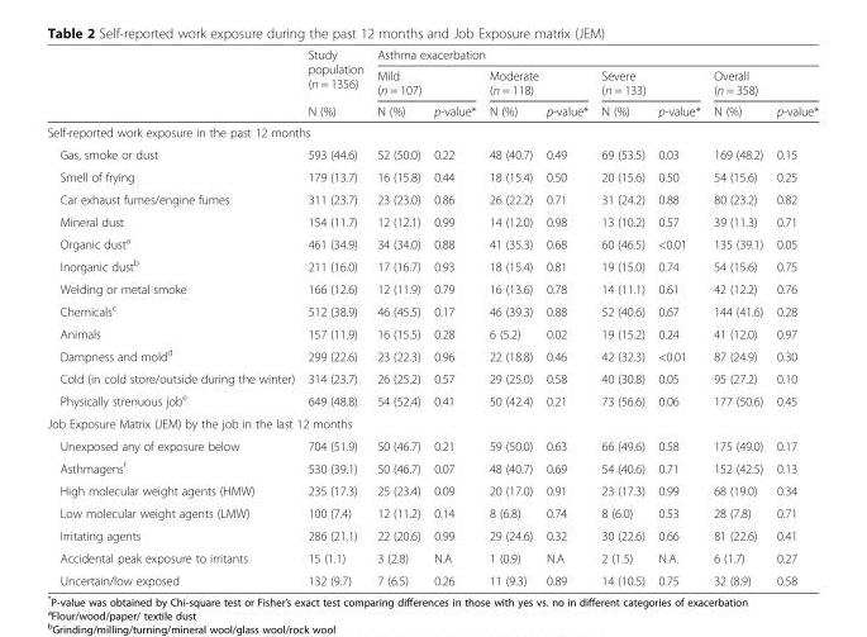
<table><thead><tr><td rowspan="3"></td><td rowspan="3">Study population (n = 1356) N (%)</td><td colspan="8">Asthma exacerbation</td></tr><tr><td colspan="2">Mild (n = 107)</td><td colspan="2">Moderate (n = 118)</td><td colspan="2">Severe (n = 133)</td><td colspan="2">Overall (n = 358)</td></tr><tr><td>N (%)</td><td>p-value*</td><td>N (%)</td><td>p-value*</td><td>N (%)</td><td>p-value*</td><td>N (%)</td><td>p-value*</td></tr></thead><tbody><tr><td colspan="10">Self-reported work exposure in the past 12 months</td></tr><tr><td>Gas, smoke or dust</td><td>593 (44.6)</td><td>52 (50.0)</td><td>0.22</td><td>48 (40.7)</td><td>0.49</td><td>69 (53.5)</td><td>0.03</td><td>169 (48.2)</td><td>0.15</td></tr><tr><td>Smell of frying</td><td>179 (13.7)</td><td>16 (15.8)</td><td>0.44</td><td>18 (15.4)</td><td>0.50</td><td>20 (15.6)</td><td>0.50</td><td>54 (15.6)</td><td>0.25</td></tr><tr><td>Car exhaust fumes/engine fumes</td><td>311 (23.7)</td><td>23 (23.0)</td><td>0.86</td><td>26 (22.2)</td><td>0.71</td><td>31 (24.2)</td><td>0.88</td><td>80 (23.2)</td><td>0.82</td></tr><tr><td>Mineral dust</td><td>154 (11.7)</td><td>12 (12.1)</td><td>0.99</td><td>14 (12.0)</td><td>0.98</td><td>13 (10.2)</td><td>0.57</td><td>39 (11.3)</td><td>0.71</td></tr><tr><td>Organic dust<sup>a</sup></td><td>461 (34.9)</td><td>34 (34.0)</td><td>0.88</td><td>41 (35.3)</td><td>0.68</td><td>60 (46.5)</td><td>&lt;0.01</td><td>135 (39.1)</td><td>0.05</td></tr><tr><td>Inorganic dust<sup>b</sup></td><td>211 (16.0)</td><td>17 (16.7)</td><td>0.93</td><td>18 (15.4)</td><td>0.81</td><td>19 (15.0)</td><td>0.74</td><td>54 (15.6)</td><td>0.75</td></tr><tr><td>Welding or metal smoke</td><td>166 (12.6)</td><td>12 (11.9)</td><td>0.79</td><td>16 (13.6)</td><td>0.78</td><td>14 (11.1)</td><td>0.61</td><td>42 (12.2)</td><td>0.76</td></tr><tr><td>Chemicals<sup>c</sup></td><td>512 (38.9)</td><td>46 (45.5)</td><td>0.17</td><td>46 (39.3)</td><td>0.88</td><td>52 (40.6)</td><td>0.67</td><td>144 (41.6)</td><td>0.28</td></tr><tr><td>Animals</td><td>157 (11.9)</td><td>16 (15.5)</td><td>0.28</td><td>6 (5.2)</td><td>0.02</td><td>19 (15.2)</td><td>0.24</td><td>41 (12.0)</td><td>0.97</td></tr><tr><td>Dampness and mold<sup>d</sup></td><td>299 (22.6)</td><td>23 (22.3)</td><td>0.96</td><td>22 (18.8)</td><td>0.46</td><td>42 (32.3)</td><td>&lt;0.01</td><td>87 (24.9)</td><td>0.30</td></tr><tr><td>Cold (in cold store/outside during the winter)</td><td>314 (23.7)</td><td>26 (25.2)</td><td>0.57</td><td>29 (25.0)</td><td>0.58</td><td>40 (30.8)</td><td>0.05</td><td>95 (27.2)</td><td>0.10</td></tr><tr><td>Physically strenuous job<sup>e</sup></td><td>649 (48.8)</td><td>54 (52.4)</td><td>0.41</td><td>50 (42.4)</td><td>0.21</td><td>73 (56.6)</td><td>0.06</td><td>177 (50.6)</td><td>0.45</td></tr><tr><td colspan="10">Job Exposure Matrix (JEM) by the job in the last 12 months</td></tr><tr><td>Unexposed any of exposure below</td><td>704 (51.9)</td><td>50 (46.7)</td><td>0.21</td><td>59 (50.0)</td><td>0.63</td><td>66 (49.6)</td><td>0.58</td><td>175 (49.0)</td><td>0.17</td></tr><tr><td>Asthmagens<sup>f</sup></td><td>530 (39.1)</td><td>50 (46.7)</td><td>0.07</td><td>48 (40.7)</td><td>0.69</td><td>54 (40.6)</td><td>0.71</td><td>152 (42.5)</td><td>0.13</td></tr><tr><td>High molecular weight agents (HMW)</td><td>235 (17.3)</td><td>25 (23.4)</td><td>0.09</td><td>20 (17.0)</td><td>0.91</td><td>23 (17.3)</td><td>0.99</td><td>68 (19.0)</td><td>0.34</td></tr><tr><td>Low molecular weight agents (LMW)</td><td>100 (7.4)</td><td>12 (11.2)</td><td>0.14</td><td>8 (6.8)</td><td>0.74</td><td>8 (6.0)</td><td>0.53</td><td>28 (7.8)</td><td>0.71</td></tr><tr><td>Irritating agents</td><td>286 (21.1)</td><td>22 (20.6)</td><td>0.99</td><td>29 (24.6)</td><td>0.32</td><td>30 (22.6)</td><td>0.66</td><td>81 (22.6)</td><td>0.41</td></tr><tr><td>Accidental peak exposure to irritants</td><td>15 (1.1)</td><td>3 (2.8)</td><td>N.A</td><td>1 (0.9)</td><td>N.A</td><td>2 (1.5)</td><td>N.A.</td><td>6 (1.7)</td><td>0.27</td></tr><tr><td>Uncertain/low exposed</td><td>132 (9.7)</td><td>7 (6.5)</td><td>0.26</td><td>11 (9.3)</td><td>0.89</td><td>14 (10.5)</td><td>0.75</td><td>32 (8.9)</td><td>0.58</td></tr></tbody></table>